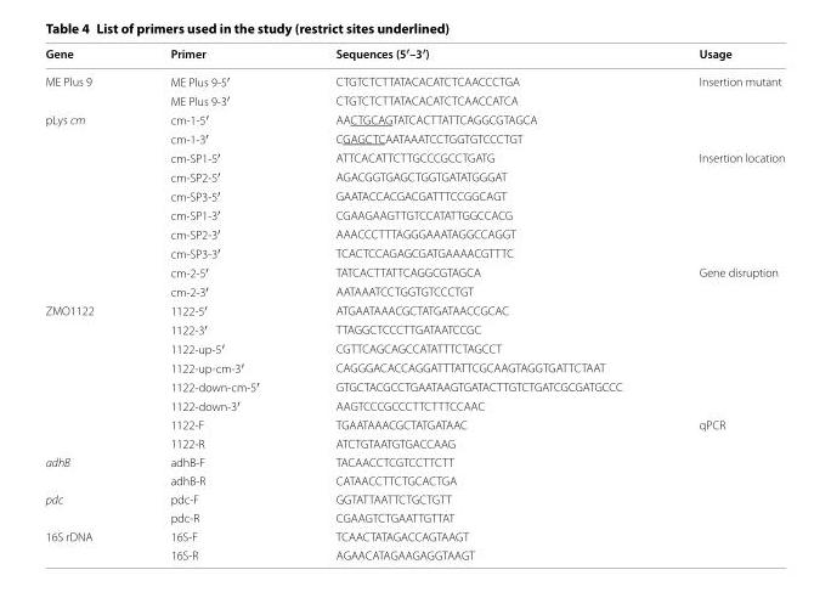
<table><thead><tr><td>Gene</td><td>Primer</td><td>Sequences (5′–3′)</td><td>Usage</td></tr></thead><tbody><tr><td rowspan="2">ME Plus 9</td><td>ME Plus 9‑5′</td><td>CTGTCTCTTATACACATCTCAACCCTGA</td><td>Insertion mutant</td></tr><tr><td>ME Plus 9‑3′</td><td>CTGTCTCTTATACACATCTCAACCATCA</td><td></td></tr><tr><td rowspan="10">pLys cm</td><td>cm‑1‑5′</td><td>AACTGCAGTATCACTTATTCAGGCGTAGCA</td><td></td></tr><tr><td>cm‑1‑3′</td><td>CGAGCTCAATAAATCCTGGTGTCCCTGT</td><td></td></tr><tr><td>cm‑SP1‑5′</td><td>ATTCACATTCTTGCCCGCCTGATG</td><td>Insertion location</td></tr><tr><td>cm‑SP2‑5′</td><td>AGACGGTGAGCTGGTGATATGGGAT</td><td></td></tr><tr><td>cm‑SP3‑5′</td><td>GAATACCACGACGATTTCCGGCAGT</td><td></td></tr><tr><td>cm‑SP1‑3′</td><td>CGAAGAAGTTGTCCATATTGGCCACG</td><td></td></tr><tr><td>cm‑SP2‑3′</td><td>AAACCCTTTAGGGAAATAGGCCAGGT</td><td></td></tr><tr><td>cm‑SP3‑3′</td><td>TCACTCCAGAGCGATGAAAACGTTTC</td><td></td></tr><tr><td>cm‑2‑5′</td><td>TATCACTTATTCAGGCGTAGCA</td><td>Gene disruption</td></tr><tr><td>cm‑2‑3′</td><td>AATAAATCCTGGTGTCCCTGT</td><td></td></tr><tr><td rowspan="8">ZMO1122</td><td>1122‑5′</td><td>ATGAATAAACGCTATGATAACCGCAC</td><td></td></tr><tr><td>1122‑3′</td><td>TTAGGCTCCCTTGATAATCCGC</td><td></td></tr><tr><td>1122‑up‑5′</td><td>CGTTCAGCAGCCATATTTCTAGCCT</td><td></td></tr><tr><td>1122‑up‑cm‑3′</td><td>CAGGGACACCAGGATTTATTCGCAAGTAGGTGATTCTAAT</td><td></td></tr><tr><td>1122‑down‑cm‑5′</td><td>GTGCTACGCCTGAATAAGTGATACTTGTCTGATCGCGATGCCC</td><td></td></tr><tr><td>1122‑down‑3′</td><td>AAGTCCCGCCCTTCTTTCCAAC</td><td></td></tr><tr><td>1122‑F</td><td>TGAATAAACGCTATGATAAC</td><td>qPCR</td></tr><tr><td>1122‑R</td><td>ATCTGTAATGTGACCAAG</td><td></td></tr><tr><td rowspan="2">adhB</td><td>adhB‑F</td><td>TACAACCTCGTCCTTCTT</td><td></td></tr><tr><td>adhB‑R</td><td>CATAACCTTCTGCACTGA</td><td></td></tr><tr><td rowspan="2">pdc</td><td>pdc‑F</td><td>GGTATTAATTCTGCTGTT</td><td></td></tr><tr><td>pdc‑R</td><td>CGAAGTCTGAATTGTTAT</td><td></td></tr><tr><td rowspan="2">16S rDNA</td><td>16S‑F</td><td>TCAACTATAGACCAGTAAGT</td><td></td></tr><tr><td>16S‑R</td><td>AGAACATAGAAGAGGTAAGT</td><td></td></tr></tbody></table>